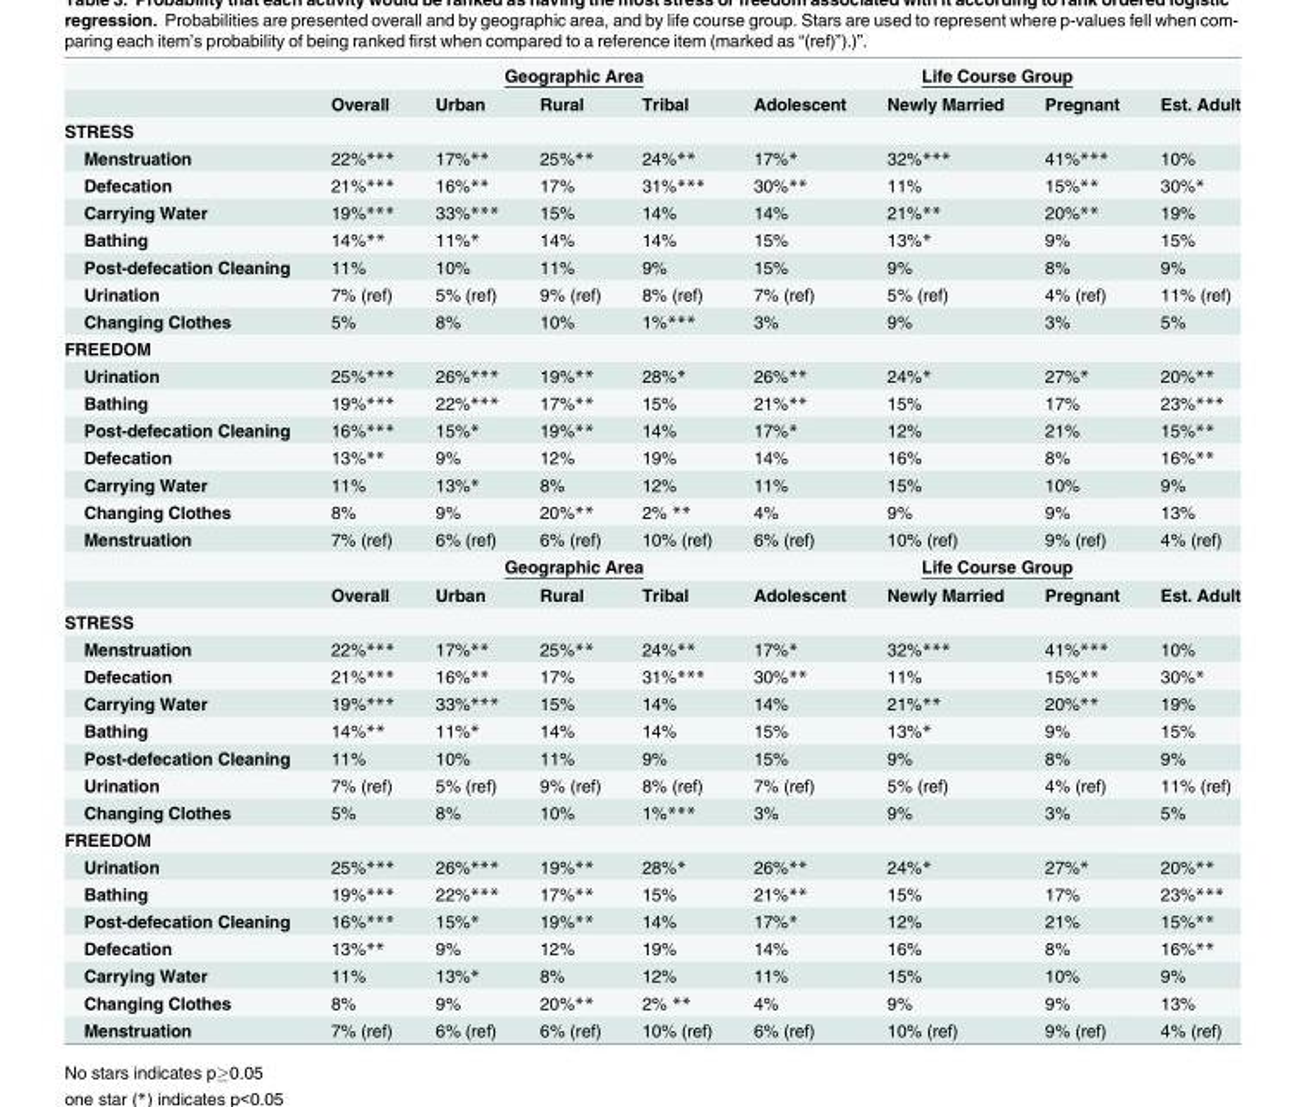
<table><thead><tr><td rowspan="2"></td><td rowspan="2">Overall</td><td colspan="3">Geographic Area</td><td colspan="4">Life Course Group</td></tr><tr><td>Urban</td><td>Rural</td><td>Tribal</td><td>Adolescent</td><td>Newly Married</td><td>Pregnant</td><td>Est. Adult</td></tr></thead><tbody><tr><td colspan="9">STRESS</td></tr><tr><td>Menstruation</td><td>22%***</td><td>17%**</td><td>25%**</td><td>24%**</td><td>17%*</td><td>32%***</td><td>41%***</td><td>10%</td></tr><tr><td>Defecation</td><td>21%***</td><td>16%**</td><td>17%</td><td>31%***</td><td>30%**</td><td>11%</td><td>15%**</td><td>30%*</td></tr><tr><td>Carrying Water</td><td>19%***</td><td>33%***</td><td>15%</td><td>14%</td><td>14%</td><td>21%**</td><td>20%**</td><td>19%</td></tr><tr><td>Bathing</td><td>14%**</td><td>11%*</td><td>14%</td><td>14%</td><td>15%</td><td>13%*</td><td>9%</td><td>15%</td></tr><tr><td>Post-defecation Cleaning</td><td>11%</td><td>10%</td><td>11%</td><td>9%</td><td>15%</td><td>9%</td><td>8%</td><td>9%</td></tr><tr><td>Urination</td><td>7% (ref)</td><td>5% (ref)</td><td>9% (ref)</td><td>8% (ref)</td><td>7% (ref)</td><td>5% (ref)</td><td>4% (ref)</td><td>11% (ref)</td></tr><tr><td>Changing Clothes</td><td>5%</td><td>8%</td><td>10%</td><td>1%***</td><td>3%</td><td>9%</td><td>3%</td><td>5%</td></tr><tr><td colspan="9">FREEDOM</td></tr><tr><td>Urination</td><td>25%***</td><td>26%***</td><td>19%**</td><td>28%*</td><td>26%**</td><td>24%*</td><td>27%*</td><td>20%**</td></tr><tr><td>Bathing</td><td>19%***</td><td>22%***</td><td>17%**</td><td>15%</td><td>21%**</td><td>15%</td><td>17%</td><td>23%***</td></tr><tr><td>Post-defecation Cleaning</td><td>16%***</td><td>15%*</td><td>19%**</td><td>14%</td><td>17%*</td><td>12%</td><td>21%</td><td>15%**</td></tr><tr><td>Defecation</td><td>13%**</td><td>9%</td><td>12%</td><td>19%</td><td>14%</td><td>16%</td><td>8%</td><td>16%**</td></tr><tr><td>Carrying Water</td><td>11%</td><td>13%*</td><td>8%</td><td>12%</td><td>11%</td><td>15%</td><td>10%</td><td>9%</td></tr><tr><td>Changing Clothes</td><td>8%</td><td>9%</td><td>20%**</td><td>2% **</td><td>4%</td><td>9%</td><td>9%</td><td>13%</td></tr><tr><td rowspan="3">Menstruation</td><td>7% (ref)</td><td>6% (ref)</td><td>6% (ref)</td><td>10% (ref)</td><td>6% (ref)</td><td>10% (ref)</td><td>9% (ref)</td><td>4% (ref)</td></tr><tr><td></td><td colspan="3">Geographic Area</td><td colspan="4">Life Course Group</td></tr><tr><td>Overall</td><td>Urban</td><td>Rural</td><td>Tribal</td><td>Adolescent</td><td>Newly Married</td><td>Pregnant</td><td>Est. Adult</td></tr><tr><td colspan="9">STRESS</td></tr><tr><td>Menstruation</td><td>22%***</td><td>17%**</td><td>25%**</td><td>24%**</td><td>17%*</td><td>32%***</td><td>41%***</td><td>10%</td></tr><tr><td>Defecation</td><td>21%***</td><td>16%**</td><td>17%</td><td>31%***</td><td>30%**</td><td>11%</td><td>15%**</td><td>30%*</td></tr><tr><td>Carrying Water</td><td>19%***</td><td>33%***</td><td>15%</td><td>14%</td><td>14%</td><td>21%**</td><td>20%**</td><td>19%</td></tr><tr><td>Bathing</td><td>14%**</td><td>11%*</td><td>14%</td><td>14%</td><td>15%</td><td>13%*</td><td>9%</td><td>15%</td></tr><tr><td>Post-defecation Cleaning</td><td>11%</td><td>10%</td><td>11%</td><td>9%</td><td>15%</td><td>9%</td><td>8%</td><td>9%</td></tr><tr><td>Urination</td><td>7% (ref)</td><td>5% (ref)</td><td>9% (ref)</td><td>8% (ref)</td><td>7% (ref)</td><td>5% (ref)</td><td>4% (ref)</td><td>11% (ref)</td></tr><tr><td>Changing Clothes</td><td>5%</td><td>8%</td><td>10%</td><td>1%***</td><td>3%</td><td>9%</td><td>3%</td><td>5%</td></tr><tr><td colspan="9">FREEDOM</td></tr><tr><td>Urination</td><td>25%***</td><td>26%***</td><td>19%**</td><td>28%*</td><td>26%**</td><td>24%*</td><td>27%*</td><td>20%**</td></tr><tr><td>Bathing</td><td>19%***</td><td>22%***</td><td>17%**</td><td>15%</td><td>21%**</td><td>15%</td><td>17%</td><td>23%***</td></tr><tr><td>Post-defecation Cleaning</td><td>16%***</td><td>15%*</td><td>19%**</td><td>14%</td><td>17%*</td><td>12%</td><td>21%</td><td>15%**</td></tr><tr><td>Defecation</td><td>13%**</td><td>9%</td><td>12%</td><td>19%</td><td>14%</td><td>16%</td><td>8%</td><td>16%**</td></tr><tr><td>Carrying Water</td><td>11%</td><td>13%*</td><td>8%</td><td>12%</td><td>11%</td><td>15%</td><td>10%</td><td>9%</td></tr><tr><td>Changing Clothes</td><td>8%</td><td>9%</td><td>20%**</td><td>2% **</td><td>4%</td><td>9%</td><td>9%</td><td>13%</td></tr><tr><td>Menstruation</td><td>7% (ref)</td><td>6% (ref)</td><td>6% (ref)</td><td>10% (ref)</td><td>6% (ref)</td><td>10% (ref)</td><td>9% (ref)</td><td>4% (ref)</td></tr></tbody></table>